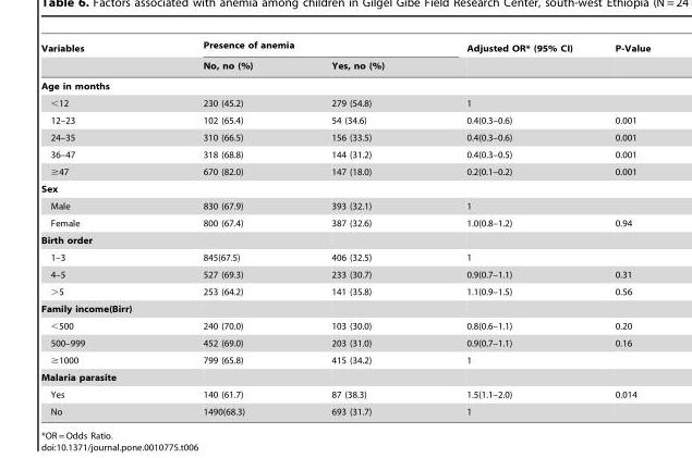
<table><thead><tr><td rowspan="2">Variables</td><td colspan="2">Presence of anemia</td><td rowspan="2">Adjusted OR* (95% CI)</td><td rowspan="2">P-Value</td></tr><tr><td>No, no (%)</td><td>Yes, no (%)</td></tr></thead><tbody><tr><td colspan="5">Age in months</td></tr><tr><td>&lt;12</td><td>230 (45.2)</td><td>279 (54.8)</td><td>1</td><td></td></tr><tr><td>12–23</td><td>102 (65.4)</td><td>54 (34.6)</td><td>0.4(0.3–0.6)</td><td>0.001</td></tr><tr><td>24–35</td><td>310 (66.5)</td><td>156 (33.5)</td><td>0.4(0.3–0.6)</td><td>0.001</td></tr><tr><td>36–47</td><td>318 (68.8)</td><td>144 (31.2)</td><td>0.4(0.3–0.5)</td><td>0.001</td></tr><tr><td>≥47</td><td>670 (82.0)</td><td>147 (18.0)</td><td>0.2(0.1–0.2)</td><td>0.001</td></tr><tr><td colspan="5">Sex</td></tr><tr><td>Male</td><td>830 (67.9)</td><td>393 (32.1)</td><td>1</td><td></td></tr><tr><td>Female</td><td>800 (67.4)</td><td>387 (32.6)</td><td>1.0(0.8–1.2)</td><td>0.94</td></tr><tr><td colspan="5">Birth order</td></tr><tr><td>1–3</td><td>845(67.5)</td><td>406 (32.5)</td><td>1</td><td></td></tr><tr><td>4–5</td><td>527 (69.3)</td><td>233 (30.7)</td><td>0.9(0.7–1.1)</td><td>0.31</td></tr><tr><td>&gt;5</td><td>253 (64.2)</td><td>141 (35.8)</td><td>1.1(0.9–1.5)</td><td>0.56</td></tr><tr><td colspan="5">Family income(Birr)</td></tr><tr><td>&lt;500</td><td>240 (70.0)</td><td>103 (30.0)</td><td>0.8(0.6–1.1)</td><td>0.20</td></tr><tr><td>500–999</td><td>452 (69.0)</td><td>203 (31.0)</td><td>0.9(0.7–1.1)</td><td>0.16</td></tr><tr><td>≥1000</td><td>799 (65.8)</td><td>415 (34.2)</td><td>1</td><td></td></tr><tr><td colspan="5">Malaria parasite</td></tr><tr><td>Yes</td><td>140 (61.7)</td><td>87 (38.3)</td><td>1.5(1.1–2.0)</td><td>0.014</td></tr><tr><td>No</td><td>1490(68.3)</td><td>693 (31.7)</td><td>1</td><td></td></tr></tbody></table>